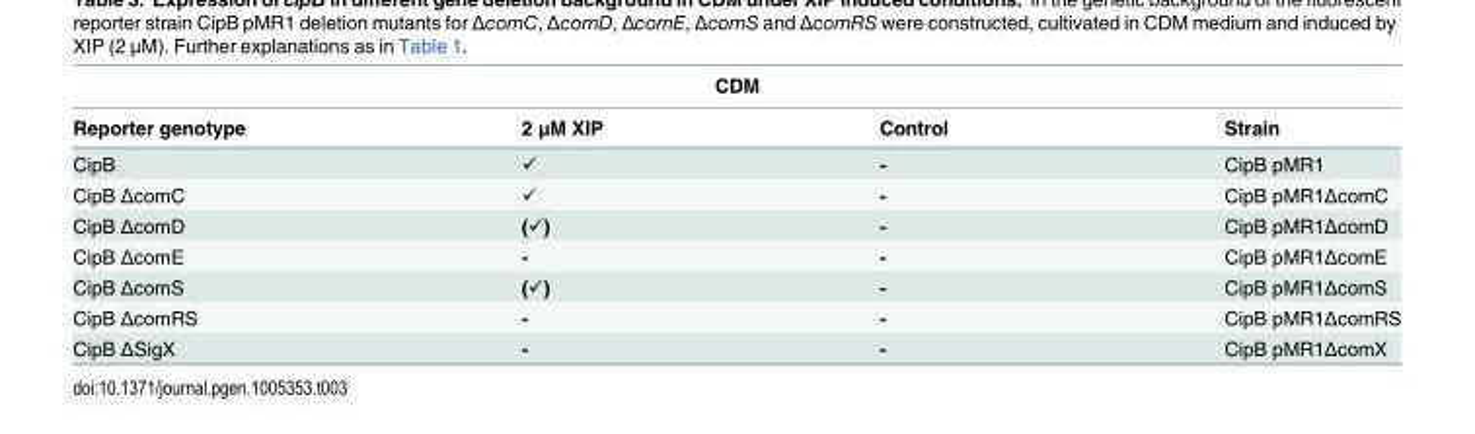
<table><thead><tr><td colspan="4">CDM</td></tr><tr><td>Reporter genotype</td><td>2 μM XIP</td><td>Control</td><td>Strain</td></tr></thead><tbody><tr><td>CipB</td><td>✓</td><td>-</td><td>CipB pMR1</td></tr><tr><td>CipB ΔcomC</td><td>✓</td><td>-</td><td>CipB pMR1ΔcomC</td></tr><tr><td>CipB ΔcomD</td><td>(✓)</td><td>-</td><td>CipB pMR1ΔcomD</td></tr><tr><td>CipB ΔcomE</td><td>-</td><td>-</td><td>CipB pMR1ΔcomE</td></tr><tr><td>CipB ΔcomS</td><td>(✓)</td><td>-</td><td>CipB pMR1ΔcomS</td></tr><tr><td>CipB ΔcomRS</td><td>-</td><td>-</td><td>CipB pMR1ΔcomRS</td></tr><tr><td>CipB ΔSigX</td><td>-</td><td>-</td><td>CipB pMR1ΔcomX</td></tr></tbody></table>